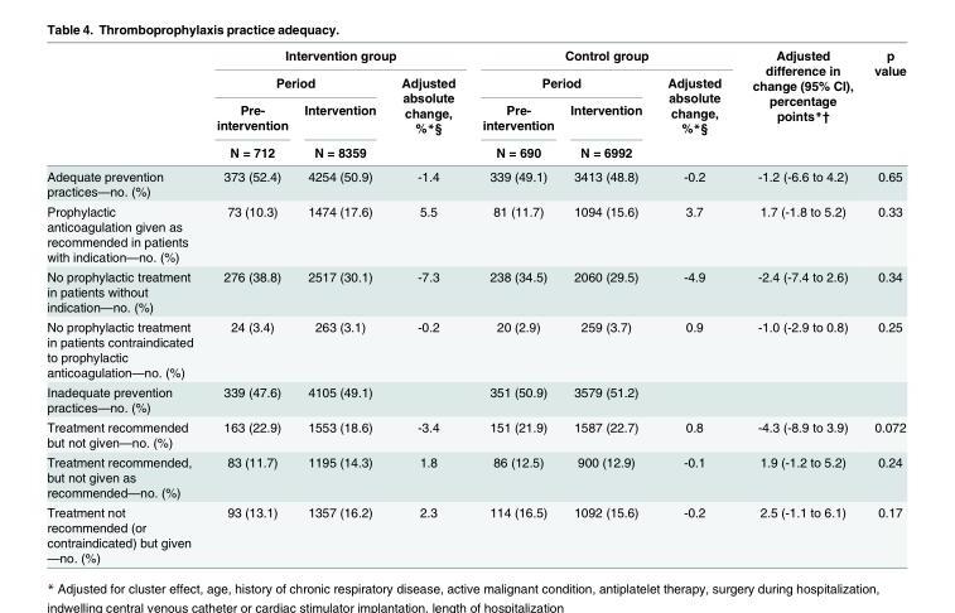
<table><thead><tr><td rowspan="4"></td><td colspan="3">Intervention group</td><td colspan="3">Control group</td><td rowspan="4">Adjusted difference in change (95% CI), percentage points*†</td><td rowspan="4">p value</td></tr><tr><td colspan="2">Period</td><td rowspan="3">Adjusted absolute change, %*§</td><td colspan="2">Period</td><td rowspan="3">Adjusted absolute change, %*§</td></tr><tr><td rowspan="2">Pre- intervention N = 712</td><td rowspan="2">Intervention N = 8359</td><td rowspan="2">Pre- intervention N = 690</td><td rowspan="2">Intervention N = 6992</td></tr><tr></tr></thead><tbody><tr><td>Adequate prevention practices—no. (%)</td><td>373 (52.4)</td><td>4254 (50.9)</td><td>-1.4</td><td>339 (49.1)</td><td>3413 (48.8)</td><td>-0.2</td><td>-1.2 (-6.6 to 4.2)</td><td>0.65</td></tr><tr><td>Prophylactic anticoagulation given as recommended in patients with indication—no. (%)</td><td>73 (10.3)</td><td>1474 (17.6)</td><td>5.5</td><td>81 (11.7)</td><td>1094 (15.6)</td><td>3.7</td><td>1.7 (-1.8 to 5.2)</td><td>0.33</td></tr><tr><td>No prophylactic treatment in patients without indication—no. (%)</td><td>276 (38.8)</td><td>2517 (30.1)</td><td>-7.3</td><td>238 (34.5)</td><td>2060 (29.5)</td><td>-4.9</td><td>-2.4 (-7.4 to 2.6)</td><td>0.34</td></tr><tr><td>No prophylactic treatment in patients contraindicated to prophylactic anticoagulation—no. (%)</td><td>24 (3.4)</td><td>263 (3.1)</td><td>-0.2</td><td>20 (2.9)</td><td>259 (3.7)</td><td>0.9</td><td>-1.0 (-2.9 to 0.8)</td><td>0.25</td></tr><tr><td>Inadequate prevention practices—no. (%)</td><td>339 (47.6)</td><td>4105 (49.1)</td><td></td><td>351 (50.9)</td><td>3579 (51.2)</td><td></td><td></td><td></td></tr><tr><td>Treatment recommended but not given—no. (%)</td><td>163 (22.9)</td><td>1553 (18.6)</td><td>-3.4</td><td>151 (21.9)</td><td>1587 (22.7)</td><td>0.8</td><td>-4.3 (-8.9 to 3.9)</td><td>0.072</td></tr><tr><td>Treatment recommended, but not given as recommended—no. (%)</td><td>83 (11.7)</td><td>1195 (14.3)</td><td>1.8</td><td>86 (12.5)</td><td>900 (12.9)</td><td>-0.1</td><td>1.9 (-1.2 to 5.2)</td><td>0.24</td></tr><tr><td>Treatment not recommended (or contraindicated) but given —no. (%)</td><td>93 (13.1)</td><td>1357 (16.2)</td><td>2.3</td><td>114 (16.5)</td><td>1092 (15.6)</td><td>-0.2</td><td>2.5 (-1.1 to 6.1)</td><td>0.17</td></tr></tbody></table>